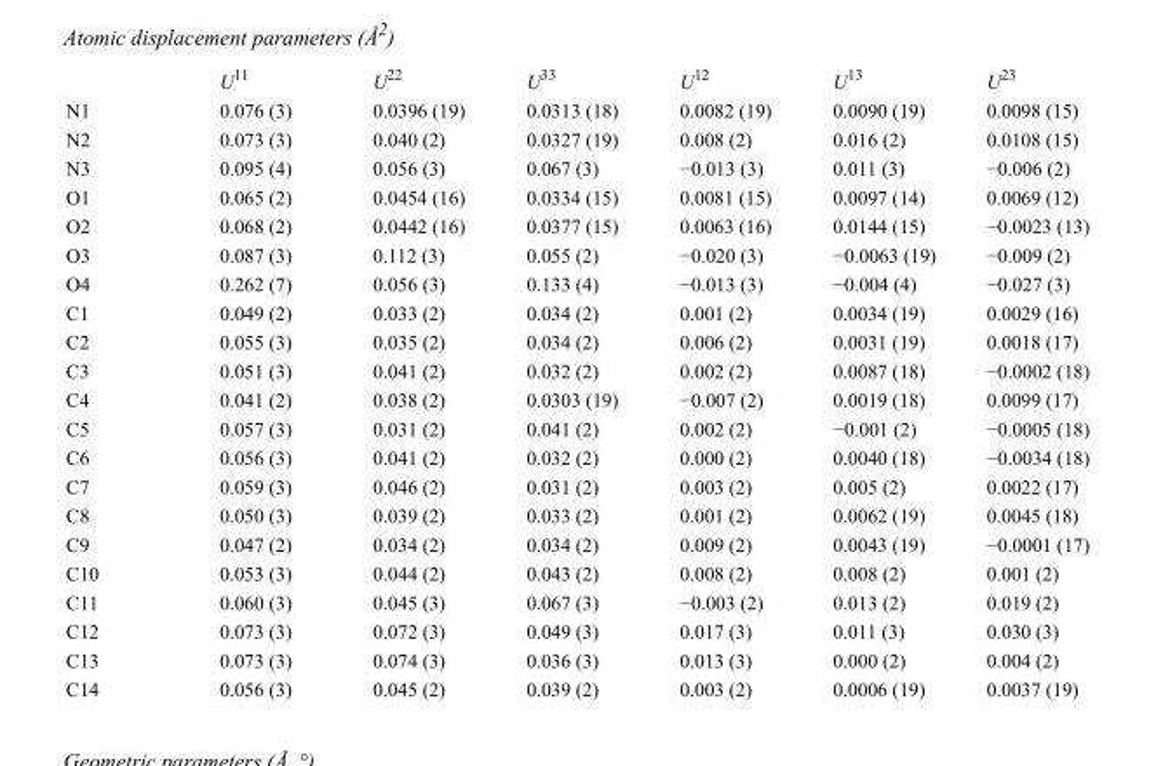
<table><thead><tr><td></td><td>U<sup>11</sup></td><td>U<sup>22</sup></td><td>U<sup>33</sup></td><td>U<sup>12</sup></td><td>U<sup>13</sup></td><td>U<sup>23</sup></td></tr></thead><tbody><tr><td>N1</td><td>0.076 (3)</td><td>0.0396 (19)</td><td>0.0313 (18)</td><td>0.0082 (19)</td><td>0.0090 (19)</td><td>0.0098 (15)</td></tr><tr><td>N2</td><td>0.073 (3)</td><td>0.040 (2)</td><td>0.0327 (19)</td><td>0.008 (2)</td><td>0.016 (2)</td><td>0.0108 (15)</td></tr><tr><td>N3</td><td>0.095 (4)</td><td>0.056 (3)</td><td>0.067 (3)</td><td>−0.013 (3)</td><td>0.011 (3)</td><td>−0.006 (2)</td></tr><tr><td>O1</td><td>0.065 (2)</td><td>0.0454 (16)</td><td>0.0334 (15)</td><td>0.0081 (15)</td><td>0.0097 (14)</td><td>0.0069 (12)</td></tr><tr><td>O2</td><td>0.068 (2)</td><td>0.0442 (16)</td><td>0.0377 (15)</td><td>0.0063 (16)</td><td>0.0144 (15)</td><td>−0.0023 (13)</td></tr><tr><td>O3</td><td>0.087 (3)</td><td>0.112 (3)</td><td>0.055 (2)</td><td>−0.020 (3)</td><td>−0.0063 (19)</td><td>−0.009 (2)</td></tr><tr><td>O4</td><td>0.262 (7)</td><td>0.056 (3)</td><td>0.133 (4)</td><td>−0.013 (3)</td><td>−0.004 (4)</td><td>−0.027 (3)</td></tr><tr><td>C1</td><td>0.049 (2)</td><td>0.033 (2)</td><td>0.034 (2)</td><td>0.001 (2)</td><td>0.0034 (19)</td><td>0.0029 (16)</td></tr><tr><td>C2</td><td>0.055 (3)</td><td>0.035 (2)</td><td>0.034 (2)</td><td>0.006 (2)</td><td>0.0031 (19)</td><td>0.0018 (17)</td></tr><tr><td>C3</td><td>0.051 (3)</td><td>0.041 (2)</td><td>0.032 (2)</td><td>0.002 (2)</td><td>0.0087 (18)</td><td>−0.0002 (18)</td></tr><tr><td>C4</td><td>0.041 (2)</td><td>0.038 (2)</td><td>0.0303 (19)</td><td>−0.007 (2)</td><td>0.0019 (18)</td><td>0.0099 (17)</td></tr><tr><td>C5</td><td>0.057 (3)</td><td>0.031 (2)</td><td>0.041 (2)</td><td>0.002 (2)</td><td>−0.001 (2)</td><td>−0.0005 (18)</td></tr><tr><td>C6</td><td>0.056 (3)</td><td>0.041 (2)</td><td>0.032 (2)</td><td>0.000 (2)</td><td>0.0040 (18)</td><td>−0.0034 (18)</td></tr><tr><td>C7</td><td>0.059 (3)</td><td>0.046 (2)</td><td>0.031 (2)</td><td>0.003 (2)</td><td>0.005 (2)</td><td>0.0022 (17)</td></tr><tr><td>C8</td><td>0.050 (3)</td><td>0.039 (2)</td><td>0.033 (2)</td><td>0.001 (2)</td><td>0.0062 (19)</td><td>0.0045 (18)</td></tr><tr><td>C9</td><td>0.047 (2)</td><td>0.034 (2)</td><td>0.034 (2)</td><td>0.009 (2)</td><td>0.0043 (19)</td><td>−0.0001 (17)</td></tr><tr><td>C10</td><td>0.053 (3)</td><td>0.044 (2)</td><td>0.043 (2)</td><td>0.008 (2)</td><td>0.008 (2)</td><td>0.001 (2)</td></tr><tr><td>C11</td><td>0.060 (3)</td><td>0.045 (3)</td><td>0.067 (3)</td><td>−0.003 (2)</td><td>0.013 (2)</td><td>0.019 (2)</td></tr><tr><td>C12</td><td>0.073 (3)</td><td>0.072 (3)</td><td>0.049 (3)</td><td>0.017 (3)</td><td>0.011 (3)</td><td>0.030 (3)</td></tr><tr><td>C13</td><td>0.073 (3)</td><td>0.074 (3)</td><td>0.036 (3)</td><td>0.013 (3)</td><td>0.000 (2)</td><td>0.004 (2)</td></tr><tr><td>C14</td><td>0.056 (3)</td><td>0.045 (2)</td><td>0.039 (2)</td><td>0.003 (2)</td><td>0.0006 (19)</td><td>0.0037 (19)</td></tr></tbody></table>